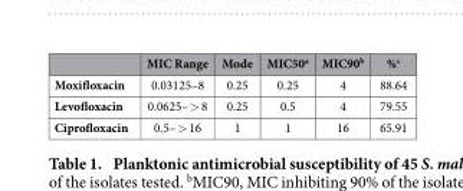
<table><thead><tr><td></td><td>MIC Range</td><td>Mode</td><td>MIC50<sup>a</sup></td><td>MIC90<sup>b</sup></td><td>%<sup>c</sup></td></tr></thead><tbody><tr><td>Moxifloxacin</td><td>0.03125–8</td><td>0.25</td><td>0.25</td><td>4</td><td>88.64</td></tr><tr><td>Levofloxacin</td><td>0.0625– &gt; 8</td><td>0.25</td><td>0.5</td><td>4</td><td>79.55</td></tr><tr><td>Ciprofloxacin</td><td>0.5– &gt; 16</td><td>1</td><td>1</td><td>16</td><td>65.91</td></tr></tbody></table>